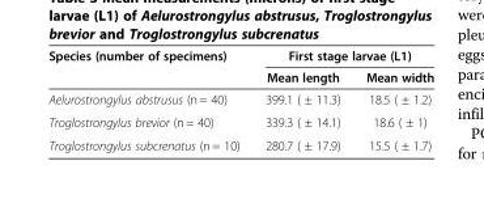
<table><thead><tr><td rowspan="2">Species (number of specimens)</td><td colspan="2">First stage larvae (L1)</td></tr><tr><td>Mean length</td><td>Mean width</td></tr></thead><tbody><tr><td>Aelurostrongylus abstrusus (n = 40)</td><td>399.1 ( ± 11.3)</td><td>18.5 ( ± 1.2)</td></tr><tr><td>Troglostrongylus brevior (n = 40)</td><td>339.3 ( ± 14.1)</td><td>18.6 ( ± 1)</td></tr><tr><td>Troglostrongylus subcrenatus (n = 10)</td><td>280.7 ( ± 17.9)</td><td>15.5 ( ± 1.7)</td></tr></tbody></table>